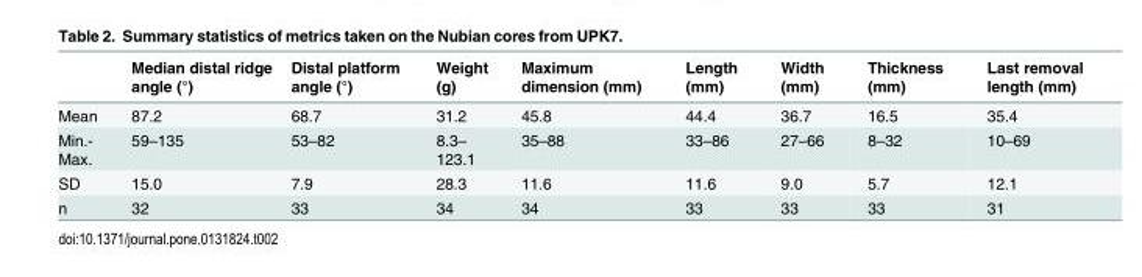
<table><thead><tr><td></td><td>Median distal ridge angle (°)</td><td>Distal platform angle (°)</td><td>Weight (g)</td><td>Maximum dimension (mm)</td><td>Length (mm)</td><td>Width (mm)</td><td>Thickness (mm)</td><td>Last removal length (mm)</td></tr></thead><tbody><tr><td>Mean</td><td>87.2</td><td>68.7</td><td>31.2</td><td>45.8</td><td>44.4</td><td>36.7</td><td>16.5</td><td>35.4</td></tr><tr><td>Min.- Max.</td><td>59–135</td><td>53–82</td><td>8.3– 123.1</td><td>35–88</td><td>33–86</td><td>27–66</td><td>8–32</td><td>10–69</td></tr><tr><td>SD</td><td>15.0</td><td>7.9</td><td>28.3</td><td>11.6</td><td>11.6</td><td>9.0</td><td>5.7</td><td>12.1</td></tr><tr><td>n</td><td>32</td><td>33</td><td>34</td><td>34</td><td>33</td><td>33</td><td>33</td><td>31</td></tr></tbody></table>